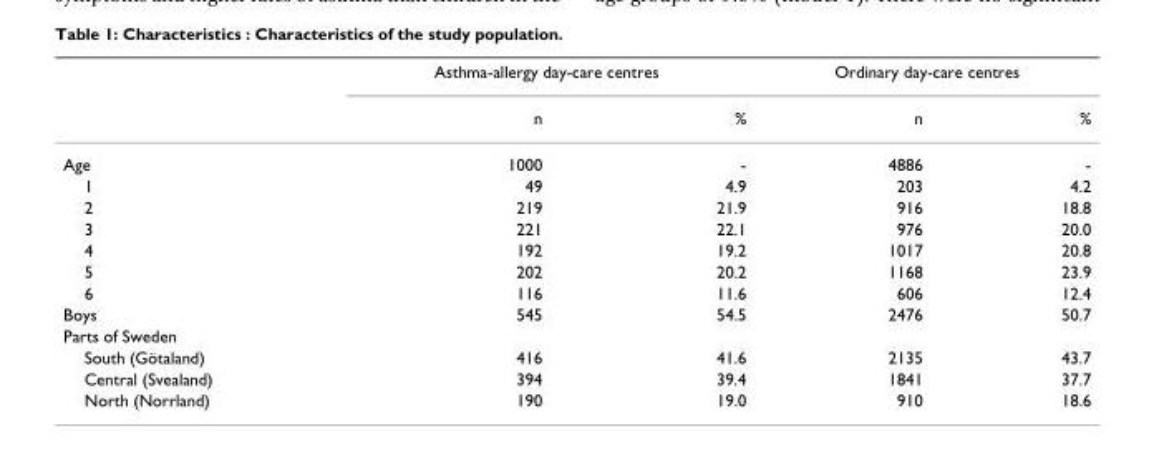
<table><thead><tr><td rowspan="2"></td><td colspan="2">Asthma-allergy day-care centres</td><td colspan="2">Ordinary day-care centres</td></tr><tr><td>n</td><td>%</td><td>n</td><td>%</td></tr></thead><tbody><tr><td>Age</td><td>1000</td><td>-</td><td>4886</td><td>-</td></tr><tr><td>1</td><td>49</td><td>4.9</td><td>203</td><td>4.2</td></tr><tr><td>2</td><td>219</td><td>21.9</td><td>916</td><td>18.8</td></tr><tr><td>3</td><td>221</td><td>22.1</td><td>976</td><td>20.0</td></tr><tr><td>4</td><td>192</td><td>19.2</td><td>1017</td><td>20.8</td></tr><tr><td>5</td><td>202</td><td>20.2</td><td>1168</td><td>23.9</td></tr><tr><td>6</td><td>116</td><td>11.6</td><td>606</td><td>12.4</td></tr><tr><td>Boys</td><td>545</td><td>54.5</td><td>2476</td><td>50.7</td></tr><tr><td colspan="5">Parts of Sweden</td></tr><tr><td>South (Götaland)</td><td>416</td><td>41.6</td><td>2135</td><td>43.7</td></tr><tr><td>Central (Svealand)</td><td>394</td><td>39.4</td><td>1841</td><td>37.7</td></tr><tr><td>North (Norrland)</td><td>190</td><td>19.0</td><td>910</td><td>18.6</td></tr></tbody></table>